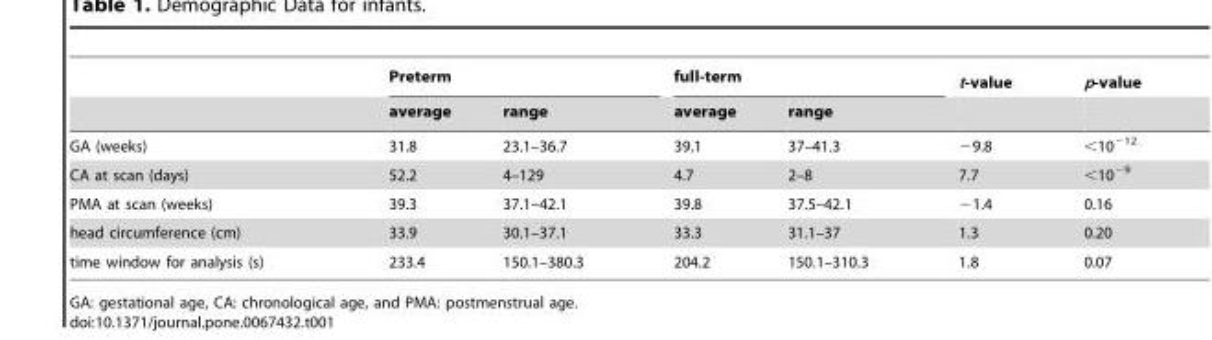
<table><thead><tr><td rowspan="2"></td><td colspan="2">Preterm</td><td colspan="2">full-term</td><td rowspan="2">t-value</td><td rowspan="2">p-value</td></tr><tr><td>average</td><td>range</td><td>average</td><td>range</td></tr></thead><tbody><tr><td>GA (weeks)</td><td>31.8</td><td>23.1–36.7</td><td>39.1</td><td>37–41.3</td><td>−9.8</td><td>&lt;10<sup>−12</sup></td></tr><tr><td>CA at scan (days)</td><td>52.2</td><td>4–129</td><td>4.7</td><td>2–8</td><td>7.7</td><td>&lt;10<sup>−9</sup></td></tr><tr><td>PMA at scan (weeks)</td><td>39.3</td><td>37.1–42.1</td><td>39.8</td><td>37.5–42.1</td><td>−1.4</td><td>0.16</td></tr><tr><td>head circumference (cm)</td><td>33.9</td><td>30.1–37.1</td><td>33.3</td><td>31.1–37</td><td>1.3</td><td>0.20</td></tr><tr><td>time window for analysis (s)</td><td>233.4</td><td>150.1–380.3</td><td>204.2</td><td>150.1–310.3</td><td>1.8</td><td>0.07</td></tr></tbody></table>